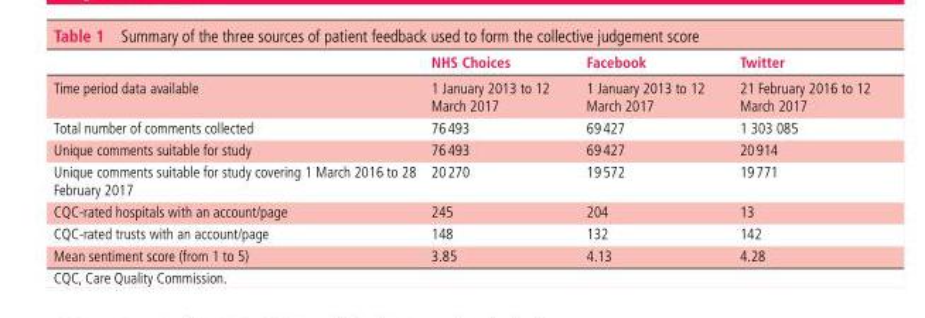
<table><thead><tr><td></td><td>NHS Choices</td><td>Facebook</td><td>Twitter</td></tr></thead><tbody><tr><td>Time period data available</td><td>1 January 2013 to 12 March 2017</td><td>1 January 2013 to 12 March 2017</td><td>21 February 2016 to 12 March 2017</td></tr><tr><td>Total number of comments collected</td><td>76 493</td><td>69 427</td><td>1 303 085</td></tr><tr><td>Unique comments suitable for study</td><td>76 493</td><td>69 427</td><td>20 914</td></tr><tr><td>Unique comments suitable for study covering 1 March 2016 to 28 February 2017</td><td>20 270</td><td>19 572</td><td>19 771</td></tr><tr><td>CQC-rated hospitals with an account/page</td><td>245</td><td>204</td><td>13</td></tr><tr><td>CQC-rated trusts with an account/page</td><td>148</td><td>132</td><td>142</td></tr><tr><td>Mean sentiment score (from 1 to 5)</td><td>3.85</td><td>4.13</td><td>4.28</td></tr></tbody></table>